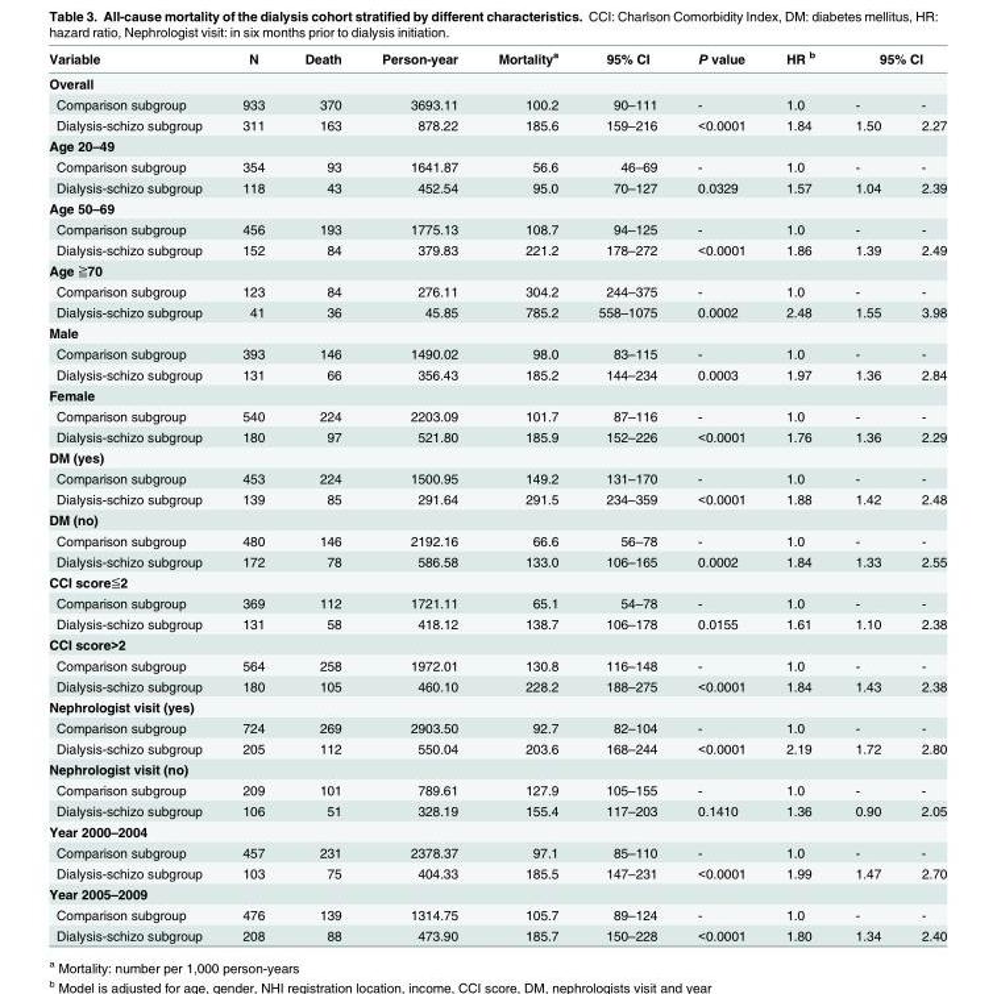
<table><thead><tr><td rowspan="2">Variable Overall</td><td rowspan="2">N</td><td rowspan="2">Death</td><td rowspan="2">Person-year</td><td rowspan="2">Mortality<sup>a</sup></td><td rowspan="2">95% CI</td><td rowspan="2">P value</td><td rowspan="2">HR <sup>b</sup></td><td colspan="2">95% CI</td></tr><tr><td></td><td></td></tr></thead><tbody><tr><td>Comparison subgroup</td><td>933</td><td>370</td><td>3693.11</td><td>100.2</td><td>90–111</td><td>-</td><td>1.0</td><td>-</td><td>-</td></tr><tr><td>Dialysis-schizo subgroup</td><td>311</td><td>163</td><td>878.22</td><td>185.6</td><td>159–216</td><td>&lt;0.0001</td><td>1.84</td><td>1.50</td><td>2.27</td></tr><tr><td colspan="10">Age 20–49</td></tr><tr><td>Comparison subgroup</td><td>354</td><td>93</td><td>1641.87</td><td>56.6</td><td>46–69</td><td>-</td><td>1.0</td><td>-</td><td>-</td></tr><tr><td>Dialysis-schizo subgroup</td><td>118</td><td>43</td><td>452.54</td><td>95.0</td><td>70–127</td><td>0.0329</td><td>1.57</td><td>1.04</td><td>2.39</td></tr><tr><td colspan="10">Age 50–69</td></tr><tr><td>Comparison subgroup</td><td>456</td><td>193</td><td>1775.13</td><td>108.7</td><td>94–125</td><td>-</td><td>1.0</td><td>-</td><td>-</td></tr><tr><td>Dialysis-schizo subgroup</td><td>152</td><td>84</td><td>379.83</td><td>221.2</td><td>178–272</td><td>&lt;0.0001</td><td>1.86</td><td>1.39</td><td>2.49</td></tr><tr><td colspan="10">Age ≧70</td></tr><tr><td>Comparison subgroup</td><td>123</td><td>84</td><td>276.11</td><td>304.2</td><td>244–375</td><td>-</td><td>1.0</td><td>-</td><td>-</td></tr><tr><td>Dialysis-schizo subgroup</td><td>41</td><td>36</td><td>45.85</td><td>785.2</td><td>558–1075</td><td>0.0002</td><td>2.48</td><td>1.55</td><td>3.98</td></tr><tr><td colspan="10">Male</td></tr><tr><td>Comparison subgroup</td><td>393</td><td>146</td><td>1490.02</td><td>98.0</td><td>83–115</td><td>-</td><td>1.0</td><td>-</td><td>-</td></tr><tr><td>Dialysis-schizo subgroup</td><td>131</td><td>66</td><td>356.43</td><td>185.2</td><td>144–234</td><td>0.0003</td><td>1.97</td><td>1.36</td><td>2.84</td></tr><tr><td colspan="10">Female</td></tr><tr><td>Comparison subgroup</td><td>540</td><td>224</td><td>2203.09</td><td>101.7</td><td>87–116</td><td>-</td><td>1.0</td><td>-</td><td>-</td></tr><tr><td>Dialysis-schizo subgroup</td><td>180</td><td>97</td><td>521.80</td><td>185.9</td><td>152–226</td><td>&lt;0.0001</td><td>1.76</td><td>1.36</td><td>2.29</td></tr><tr><td colspan="10">DM (yes)</td></tr><tr><td>Comparison subgroup</td><td>453</td><td>224</td><td>1500.95</td><td>149.2</td><td>131–170</td><td>-</td><td>1.0</td><td>-</td><td>-</td></tr><tr><td>Dialysis-schizo subgroup</td><td>139</td><td>85</td><td>291.64</td><td>291.5</td><td>234–359</td><td>&lt;0.0001</td><td>1.88</td><td>1.42</td><td>2.48</td></tr><tr><td colspan="10">DM (no)</td></tr><tr><td>Comparison subgroup</td><td>480</td><td>146</td><td>2192.16</td><td>66.6</td><td>56–78</td><td>-</td><td>1.0</td><td>-</td><td>-</td></tr><tr><td>Dialysis-schizo subgroup</td><td>172</td><td>78</td><td>586.58</td><td>133.0</td><td>106–165</td><td>0.0002</td><td>1.84</td><td>1.33</td><td>2.55</td></tr><tr><td colspan="10">CCI score≦2</td></tr><tr><td>Comparison subgroup</td><td>369</td><td>112</td><td>1721.11</td><td>65.1</td><td>54–78</td><td>-</td><td>1.0</td><td>-</td><td>-</td></tr><tr><td>Dialysis-schizo subgroup</td><td>131</td><td>58</td><td>418.12</td><td>138.7</td><td>106–178</td><td>0.0155</td><td>1.61</td><td>1.10</td><td>2.38</td></tr><tr><td colspan="10">CCI score&gt;2</td></tr><tr><td>Comparison subgroup</td><td>564</td><td>258</td><td>1972.01</td><td>130.8</td><td>116–148</td><td>-</td><td>1.0</td><td>-</td><td>-</td></tr><tr><td>Dialysis-schizo subgroup</td><td>180</td><td>105</td><td>460.10</td><td>228.2</td><td>188–275</td><td>&lt;0.0001</td><td>1.84</td><td>1.43</td><td>2.38</td></tr><tr><td colspan="10">Nephrologist visit (yes)</td></tr><tr><td>Comparison subgroup</td><td>724</td><td>269</td><td>2903.50</td><td>92.7</td><td>82–104</td><td>-</td><td>1.0</td><td>-</td><td>-</td></tr><tr><td>Dialysis-schizo subgroup</td><td>205</td><td>112</td><td>550.04</td><td>203.6</td><td>168–244</td><td>&lt;0.0001</td><td>2.19</td><td>1.72</td><td>2.80</td></tr><tr><td colspan="10">Nephrologist visit (no)</td></tr><tr><td>Comparison subgroup</td><td>209</td><td>101</td><td>789.61</td><td>127.9</td><td>105–155</td><td>-</td><td>1.0</td><td>-</td><td>-</td></tr><tr><td>Dialysis-schizo subgroup</td><td>106</td><td>51</td><td>328.19</td><td>155.4</td><td>117–203</td><td>0.1410</td><td>1.36</td><td>0.90</td><td>2.05</td></tr><tr><td colspan="10">Year 2000–2004</td></tr><tr><td>Comparison subgroup</td><td>457</td><td>231</td><td>2378.37</td><td>97.1</td><td>85–110</td><td>-</td><td>1.0</td><td>-</td><td>-</td></tr><tr><td>Dialysis-schizo subgroup</td><td>103</td><td>75</td><td>404.33</td><td>185.5</td><td>147–231</td><td>&lt;0.0001</td><td>1.99</td><td>1.47</td><td>2.70</td></tr><tr><td colspan="10">Year 2005–2009</td></tr><tr><td>Comparison subgroup</td><td>476</td><td>139</td><td>1314.75</td><td>105.7</td><td>89–124</td><td>-</td><td>1.0</td><td>-</td><td>-</td></tr><tr><td>Dialysis-schizo subgroup</td><td>208</td><td>88</td><td>473.90</td><td>185.7</td><td>150–228</td><td>&lt;0.0001</td><td>1.80</td><td>1.34</td><td>2.40</td></tr></tbody></table>